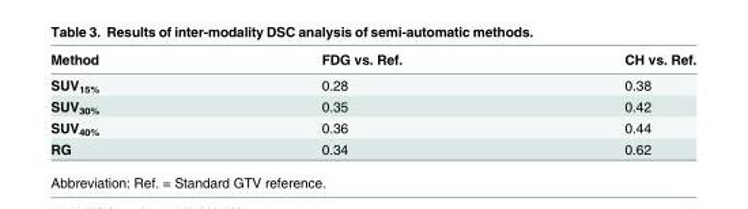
<table><thead><tr><td>Method</td><td>FDG vs. Ref.</td><td>CH vs. Ref.</td></tr></thead><tbody><tr><td>SUV<sub>15%</sub></td><td>0.28</td><td>0.38</td></tr><tr><td>SUV<sub>30%</sub></td><td>0.35</td><td>0.42</td></tr><tr><td>SUV<sub>40%</sub></td><td>0.36</td><td>0.44</td></tr><tr><td>RG</td><td>0.34</td><td>0.62</td></tr></tbody></table>